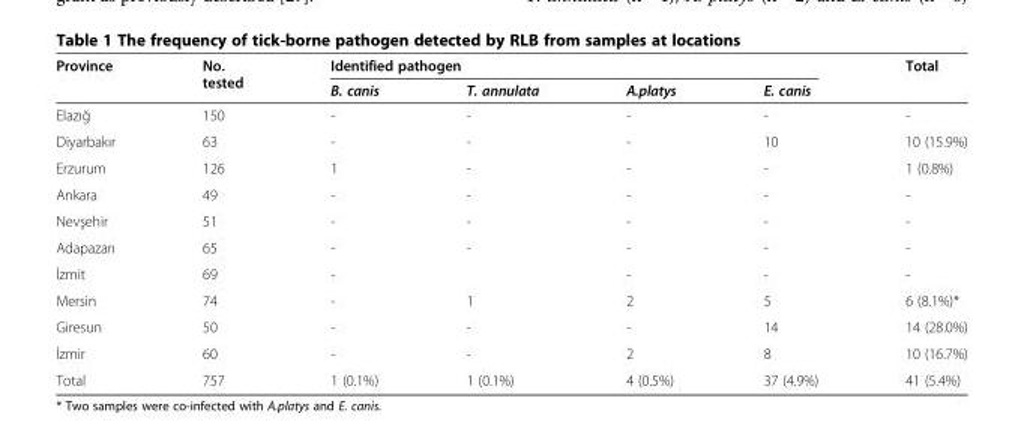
<table><thead><tr><td rowspan="2">Province</td><td rowspan="2">No. tested</td><td colspan="4">Identified pathogen</td><td rowspan="2">Total</td></tr><tr><td>B. canis</td><td>T. annulata</td><td>A.platys</td><td>E. canis</td></tr></thead><tbody><tr><td>Elazığ</td><td>150</td><td>-</td><td>-</td><td>-</td><td>-</td><td>-</td></tr><tr><td>Diyarbakır</td><td>63</td><td>-</td><td>-</td><td>-</td><td>10</td><td>10 (15.9%)</td></tr><tr><td>Erzurum</td><td>126</td><td>1</td><td>-</td><td>-</td><td>-</td><td>1 (0.8%)</td></tr><tr><td>Ankara</td><td>49</td><td>-</td><td>-</td><td>-</td><td>-</td><td>-</td></tr><tr><td>Nevşehir</td><td>51</td><td>-</td><td>-</td><td>-</td><td>-</td><td>-</td></tr><tr><td>Adapazarı</td><td>65</td><td>-</td><td>-</td><td>-</td><td>-</td><td>-</td></tr><tr><td>İzmit</td><td>69</td><td>-</td><td></td><td>-</td><td>-</td><td>-</td></tr><tr><td>Mersin</td><td>74</td><td>-</td><td>1</td><td>2</td><td>5</td><td>6 (8.1%)*</td></tr><tr><td>Giresun</td><td>50</td><td>-</td><td>-</td><td>-</td><td>14</td><td>14 (28.0%)</td></tr><tr><td>İzmir</td><td>60</td><td>-</td><td>-</td><td>2</td><td>8</td><td>10 (16.7%)</td></tr><tr><td>Total</td><td>757</td><td>1 (0.1%)</td><td>1 (0.1%)</td><td>4 (0.5%)</td><td>37 (4.9%)</td><td>41 (5.4%)</td></tr></tbody></table>